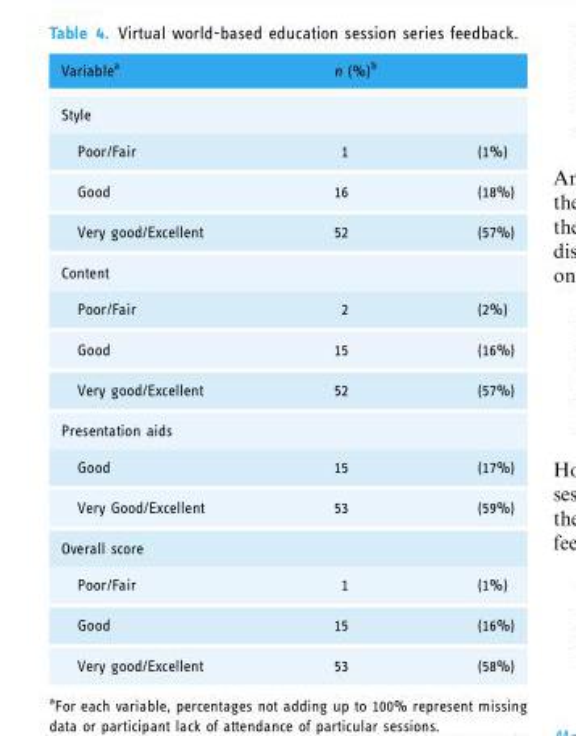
<table><thead><tr><td>Variable<sup>a</sup></td><td colspan="2">n (%)<sup>b</sup></td></tr><tr><td colspan="3">Style</td></tr><tr><td>Poor/Fair</td><td>1</td><td>(1%)</td></tr></thead><tbody><tr><td>Good</td><td>16</td><td>(18%)</td></tr><tr><td>Very good/Excellent</td><td>52</td><td>(57%)</td></tr><tr><td colspan="3">Content</td></tr><tr><td>Poor/Fair</td><td>2</td><td>(2%)</td></tr><tr><td>Good</td><td>15</td><td>(16%)</td></tr><tr><td>Very good/Excellent</td><td>52</td><td>(57%)</td></tr><tr><td colspan="3">Presentation aids</td></tr><tr><td>Good</td><td>15</td><td>(17%)</td></tr><tr><td>Very Good/Excellent</td><td>53</td><td>(59%)</td></tr><tr><td colspan="3">Overall score</td></tr><tr><td>Poor/Fair</td><td>1</td><td>(1%)</td></tr><tr><td>Good</td><td>15</td><td>(16%)</td></tr><tr><td>Very good/Excellent</td><td>53</td><td>(58%)</td></tr></tbody></table>